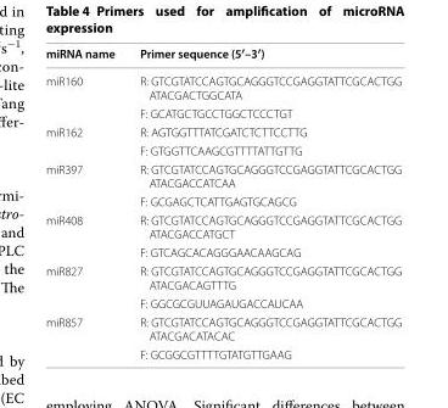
<table><thead><tr><td>miRNA name</td><td>Primer sequence (5′–3′)</td></tr></thead><tbody><tr><td rowspan="2">miR160</td><td>R: GTCGTATCCAGTGCAGGGTCCGAGGTATTCGCACTGG ATACGACTGGCATA</td></tr><tr><td>F: GCATGCTGCCTGGCTCCCTGT</td></tr><tr><td rowspan="2">miR162</td><td>R: AGTGGTTTATCGATCTCTTCCTTG</td></tr><tr><td>F: GTGGTTCAAGCGTTTTATTGTTG</td></tr><tr><td rowspan="2">miR397</td><td>R: GTCGTATCCAGTGCAGGGTCCGAGGTATTCGCACTGG ATACGACCATCAA</td></tr><tr><td>F: GCGAGCTCATTGAGTGCAGCG</td></tr><tr><td rowspan="2">miR408</td><td>R: GTCGTATCCAGTGCAGGGTCCGAGGTATTCGCACTGG ATACGACCATGCT</td></tr><tr><td>F: GTCAGCACAGGGAACAAGCAG</td></tr><tr><td rowspan="2">miR827</td><td>R: GTCGTATCCAGTGCAGGGTCCGAGGTATTCGCACTGG ATACGACAGTTTG</td></tr><tr><td>F: GGCGCGUUAGAUGACCAUCAA</td></tr><tr><td rowspan="2">miR857</td><td>R: GTCGTATCCAGTGCAGGGTCCGAGGTATTCGCACTGG ATACGACATACAC</td></tr><tr><td>F: GCGGCGTTTTGTATGTTGAAG</td></tr></tbody></table>